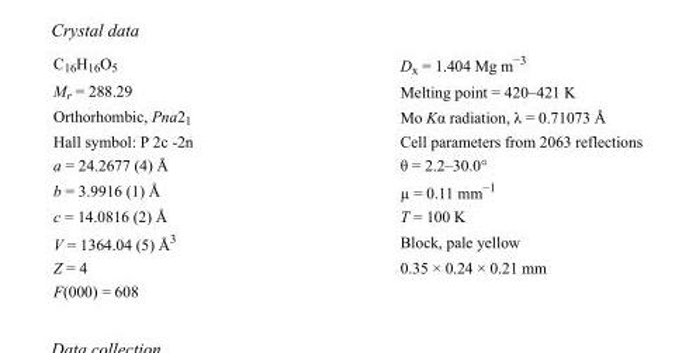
<table><tbody><tr><td>C<sub>16</sub>H<sub>16</sub>O<sub>5</sub></td><td>D<sub>x</sub> = 1.404 Mg m<sup>−3</sup></td></tr><tr><td>M<sub>r</sub> = 288.29</td><td>Melting point = 420–421 K</td></tr><tr><td>Orthorhombic, Pna2<sub>1</sub></td><td>Mo Kα radiation, λ = 0.71073 Å</td></tr><tr><td>Hall symbol: P 2c -2n</td><td>Cell parameters from 2063 reflections</td></tr><tr><td>a = 24.2677 (4) Å</td><td>θ = 2.2–30.0°</td></tr><tr><td>b = 3.9916 (1) Å</td><td>µ = 0.11 mm<sup>−1</sup></td></tr><tr><td>c = 14.0816 (2) Å</td><td>T = 100 K</td></tr><tr><td>V = 1364.04 (5) Å<sup>3</sup></td><td>Block, pale yellow</td></tr><tr><td>Z = 4</td><td>0.35 × 0.24 × 0.21 mm</td></tr><tr><td>F(000) = 608</td><td></td></tr></tbody></table>